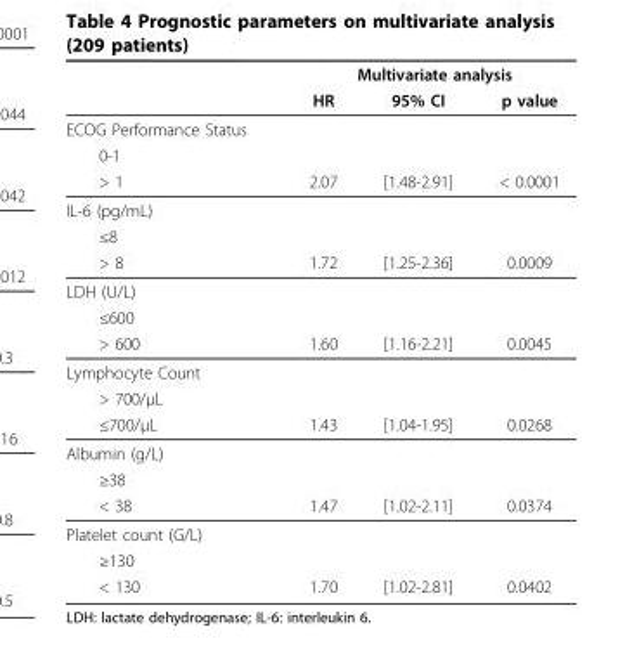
<table><thead><tr><td rowspan="2"></td><td colspan="3">Multivariate analysis</td></tr><tr><td>HR</td><td>95% CI</td><td>p value</td></tr></thead><tbody><tr><td colspan="4">ECOG Performance Status</td></tr><tr><td colspan="4">0-1</td></tr><tr><td>&gt; 1</td><td>2.07</td><td>[1.48-2.91]</td><td>&lt; 0.0001</td></tr><tr><td colspan="4">IL-6 (pg/mL)</td></tr><tr><td colspan="4">≤8</td></tr><tr><td>&gt; 8</td><td>1.72</td><td>[1.25-2.36]</td><td>0.0009</td></tr><tr><td colspan="4">LDH (U/L)</td></tr><tr><td colspan="4">≤600</td></tr><tr><td>&gt; 600</td><td>1.60</td><td>[1.16-2.21]</td><td>0.0045</td></tr><tr><td colspan="4">Lymphocyte Count</td></tr><tr><td colspan="4">&gt; 700/μL</td></tr><tr><td>≤700/μL</td><td>1.43</td><td>[1.04-1.95]</td><td>0.0268</td></tr><tr><td colspan="4">Albumin (g/L)</td></tr><tr><td colspan="4">≥38</td></tr><tr><td>&lt; 38</td><td>1.47</td><td>[1.02-2.11]</td><td>0.0374</td></tr><tr><td colspan="4">Platelet count (G/L)</td></tr><tr><td colspan="4">≥130</td></tr><tr><td>&lt; 130</td><td>1.70</td><td>[1.02-2.81]</td><td>0.0402</td></tr></tbody></table>